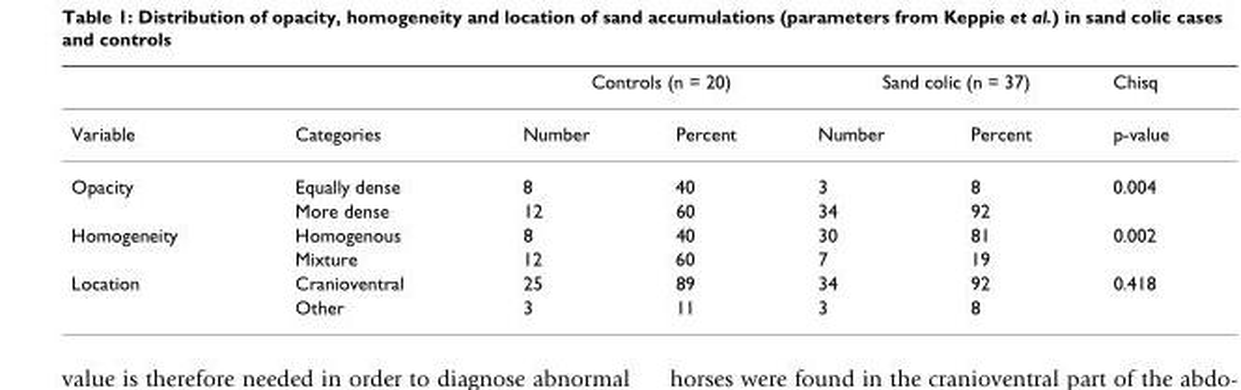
<table><thead><tr><td rowspan="2">Variable</td><td rowspan="2">Categories</td><td colspan="2">Controls (n = 20)</td><td colspan="2">Sand colic (n = 37)</td><td rowspan="2">Chisq p-value</td></tr><tr><td>Number</td><td>Percent</td><td>Number</td><td>Percent</td></tr></thead><tbody><tr><td rowspan="2">Opacity</td><td>Equally dense</td><td>8</td><td>40</td><td>3</td><td>8</td><td>0.004</td></tr><tr><td>More dense</td><td>12</td><td>60</td><td>34</td><td>92</td><td></td></tr><tr><td rowspan="2">Homogeneity</td><td>Homogenous</td><td>8</td><td>40</td><td>30</td><td>81</td><td>0.002</td></tr><tr><td>Mixture</td><td>12</td><td>60</td><td>7</td><td>19</td><td></td></tr><tr><td rowspan="2">Location</td><td>Cranioventral</td><td>25</td><td>89</td><td>34</td><td>92</td><td>0.418</td></tr><tr><td>Other</td><td>3</td><td>11</td><td>3</td><td>8</td><td></td></tr></tbody></table>